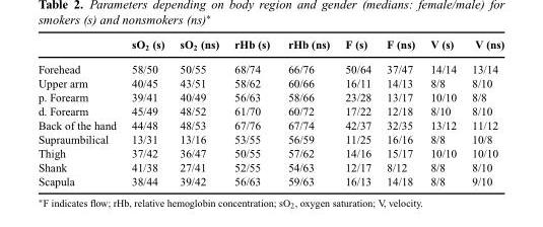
<table><thead><tr><td></td><td>sO<sub>2</sub> (s)</td><td>sO<sub>2</sub> (ns)</td><td>rHb (s)</td><td>rHb (ns)</td><td>F (s)</td><td>F (ns)</td><td>V (s)</td><td>V (ns)</td></tr></thead><tbody><tr><td>Forehead</td><td>58/50</td><td>50/55</td><td>68/74</td><td>66/76</td><td>50/64</td><td>37/47</td><td>14/14</td><td>13/14</td></tr><tr><td>Upper arm</td><td>40/45</td><td>43/51</td><td>58/62</td><td>60/66</td><td>16/11</td><td>14/13</td><td>8/8</td><td>8/10</td></tr><tr><td>p. Forearm</td><td>39/41</td><td>40/49</td><td>56/63</td><td>58/66</td><td>23/28</td><td>13/17</td><td>10/10</td><td>8/8</td></tr><tr><td>d. Forearm</td><td>45/49</td><td>48/52</td><td>61/70</td><td>60/72</td><td>17/22</td><td>12/18</td><td>8/10</td><td>8/10</td></tr><tr><td>Back of the hand</td><td>44/48</td><td>48/53</td><td>67/76</td><td>67/74</td><td>42/37</td><td>32/35</td><td>13/12</td><td>11/12</td></tr><tr><td>Supraumbilical</td><td>13/31</td><td>13/16</td><td>53/55</td><td>56/59</td><td>11/25</td><td>16/16</td><td>8/8</td><td>10/8</td></tr><tr><td>Thigh</td><td>37/42</td><td>36/47</td><td>50/55</td><td>57/62</td><td>14/16</td><td>15/17</td><td>10/10</td><td>10/10</td></tr><tr><td>Shank</td><td>41/38</td><td>27/41</td><td>52/55</td><td>54/63</td><td>12/17</td><td>8/12</td><td>8/8</td><td>8/10</td></tr><tr><td>Scapula</td><td>38/44</td><td>39/42</td><td>56/63</td><td>59/63</td><td>16/13</td><td>14/18</td><td>8/8</td><td>9/10</td></tr></tbody></table>